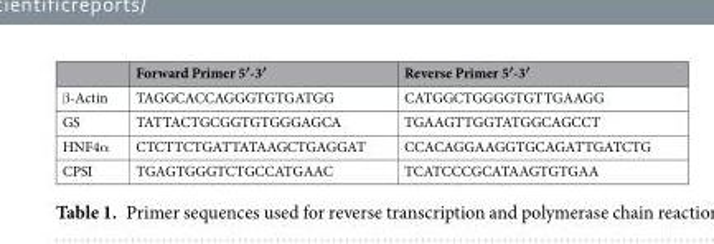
<table><thead><tr><td></td><td>Forward Primer 5′-3′</td><td>Reverse Primer 5′-3′</td></tr></thead><tbody><tr><td>β-Actin</td><td>TAGGCACCAGGGTGTGATGG</td><td>CATGGCTGGGGTGTTGAAGG</td></tr><tr><td>GS</td><td>TATTACTGCGGTGTGGGAGCA</td><td>TGAAGTTGGTATGGCAGCCT</td></tr><tr><td>HNF4α</td><td>CTCTTCTGATTATAAGCTGAGGAT</td><td>CCACAGGAAGGTGCAGATTGATCTG</td></tr><tr><td>CPSI</td><td>TGAGTGGGTCTGCCATGAAC</td><td>TCATCCCGCATAAGTGTGAA</td></tr></tbody></table>